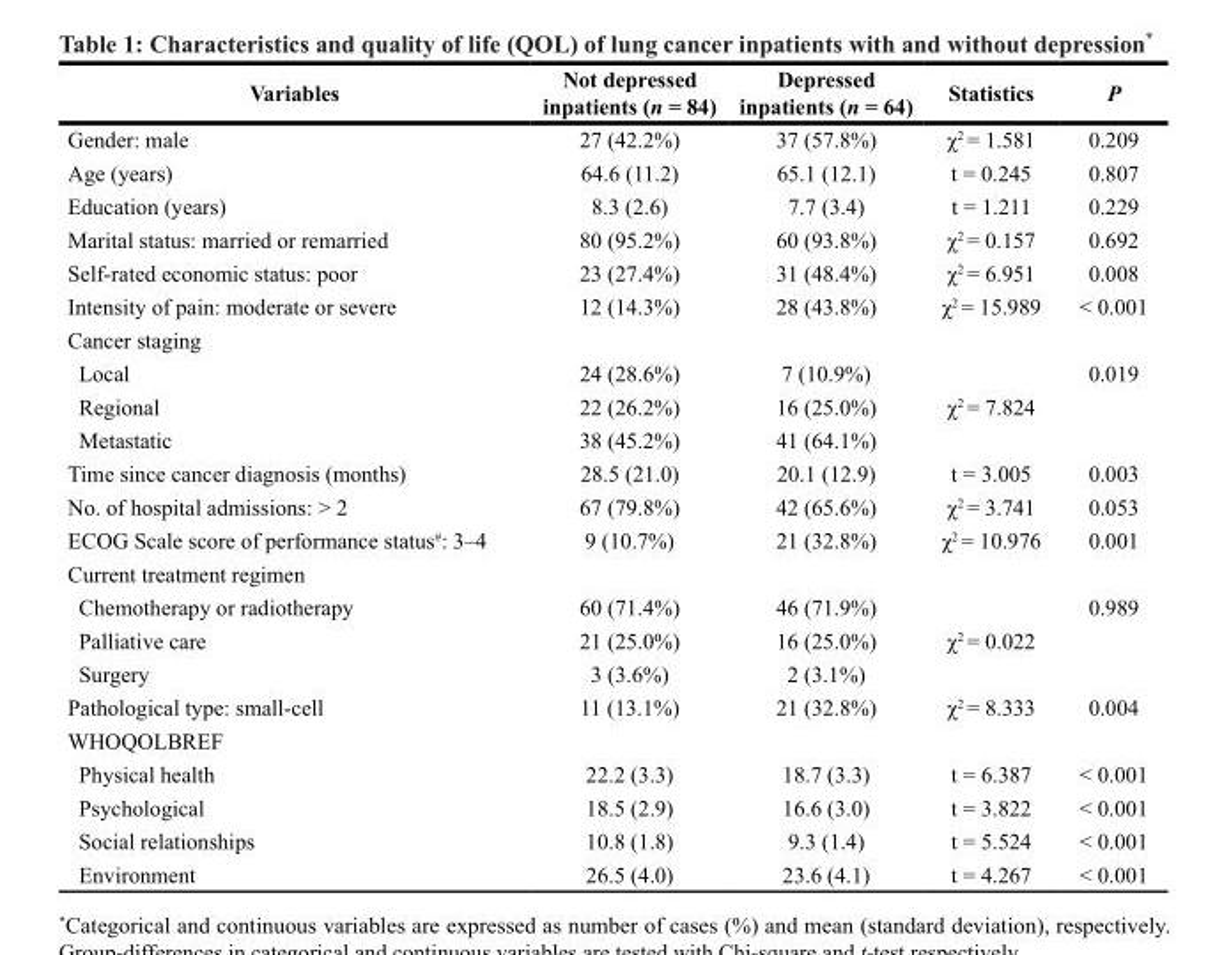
<table><thead><tr><td>Variables</td><td>Not depressed inpatients (n = 84)</td><td>Depressed inpatients (n = 64)</td><td>Statistics</td><td>P</td></tr></thead><tbody><tr><td>Gender: male</td><td>27 (42.2%)</td><td>37 (57.8%)</td><td>χ<sup>2</sup> = 1.581</td><td>0.209</td></tr><tr><td>Age (years)</td><td>64.6 (11.2)</td><td>65.1 (12.1)</td><td>t = 0.245</td><td>0.807</td></tr><tr><td>Education (years)</td><td>8.3 (2.6)</td><td>7.7 (3.4)</td><td>t = 1.211</td><td>0.229</td></tr><tr><td>Marital status: married or remarried</td><td>80 (95.2%)</td><td>60 (93.8%)</td><td>χ<sup>2</sup> = 0.157</td><td>0.692</td></tr><tr><td>Self-rated economic status: poor</td><td>23 (27.4%)</td><td>31 (48.4%)</td><td>χ<sup>2</sup> = 6.951</td><td>0.008</td></tr><tr><td>Intensity of pain: moderate or severe</td><td>12 (14.3%)</td><td>28 (43.8%)</td><td>χ<sup>2</sup> = 15.989</td><td>&lt; 0.001</td></tr><tr><td colspan="5">Cancer staging</td></tr><tr><td>Local</td><td>24 (28.6%)</td><td>7 (10.9%)</td><td rowspan="3">χ<sup>2</sup> = 7.824</td><td rowspan="3">0.019</td></tr><tr><td>Regional</td><td>22 (26.2%)</td><td>16 (25.0%)</td></tr><tr><td>Metastatic</td><td>38 (45.2%)</td><td>41 (64.1%)</td></tr><tr><td>Time since cancer diagnosis (months)</td><td>28.5 (21.0)</td><td>20.1 (12.9)</td><td>t = 3.005</td><td>0.003</td></tr><tr><td>No. of hospital admissions: &gt; 2</td><td>67 (79.8%)</td><td>42 (65.6%)</td><td>χ<sup>2</sup> = 3.741</td><td>0.053</td></tr><tr><td>ECOG Scale score of performance status<sup>#</sup>: 3–4</td><td>9 (10.7%)</td><td>21 (32.8%)</td><td>χ<sup>2</sup> = 10.976</td><td>0.001</td></tr><tr><td colspan="5">Current treatment regimen</td></tr><tr><td>Chemotherapy or radiotherapy</td><td>60 (71.4%)</td><td>46 (71.9%)</td><td rowspan="3">χ<sup>2</sup> = 0.022</td><td rowspan="3">0.989</td></tr><tr><td>Palliative care</td><td>21 (25.0%)</td><td>16 (25.0%)</td></tr><tr><td>Surgery</td><td>3 (3.6%)</td><td>2 (3.1%)</td></tr><tr><td>Pathological type: small-cell</td><td>11 (13.1%)</td><td>21 (32.8%)</td><td>χ<sup>2</sup> = 8.333</td><td>0.004</td></tr><tr><td colspan="5">WHOQOLBREF</td></tr><tr><td>Physical health</td><td>22.2 (3.3)</td><td>18.7 (3.3)</td><td>t = 6.387</td><td>&lt; 0.001</td></tr><tr><td>Psychological</td><td>18.5 (2.9)</td><td>16.6 (3.0)</td><td>t = 3.822</td><td>&lt; 0.001</td></tr><tr><td>Social relationships</td><td>10.8 (1.8)</td><td>9.3 (1.4)</td><td>t = 5.524</td><td>&lt; 0.001</td></tr><tr><td>Environment</td><td>26.5 (4.0)</td><td>23.6 (4.1)</td><td>t = 4.267</td><td>&lt; 0.001</td></tr></tbody></table>